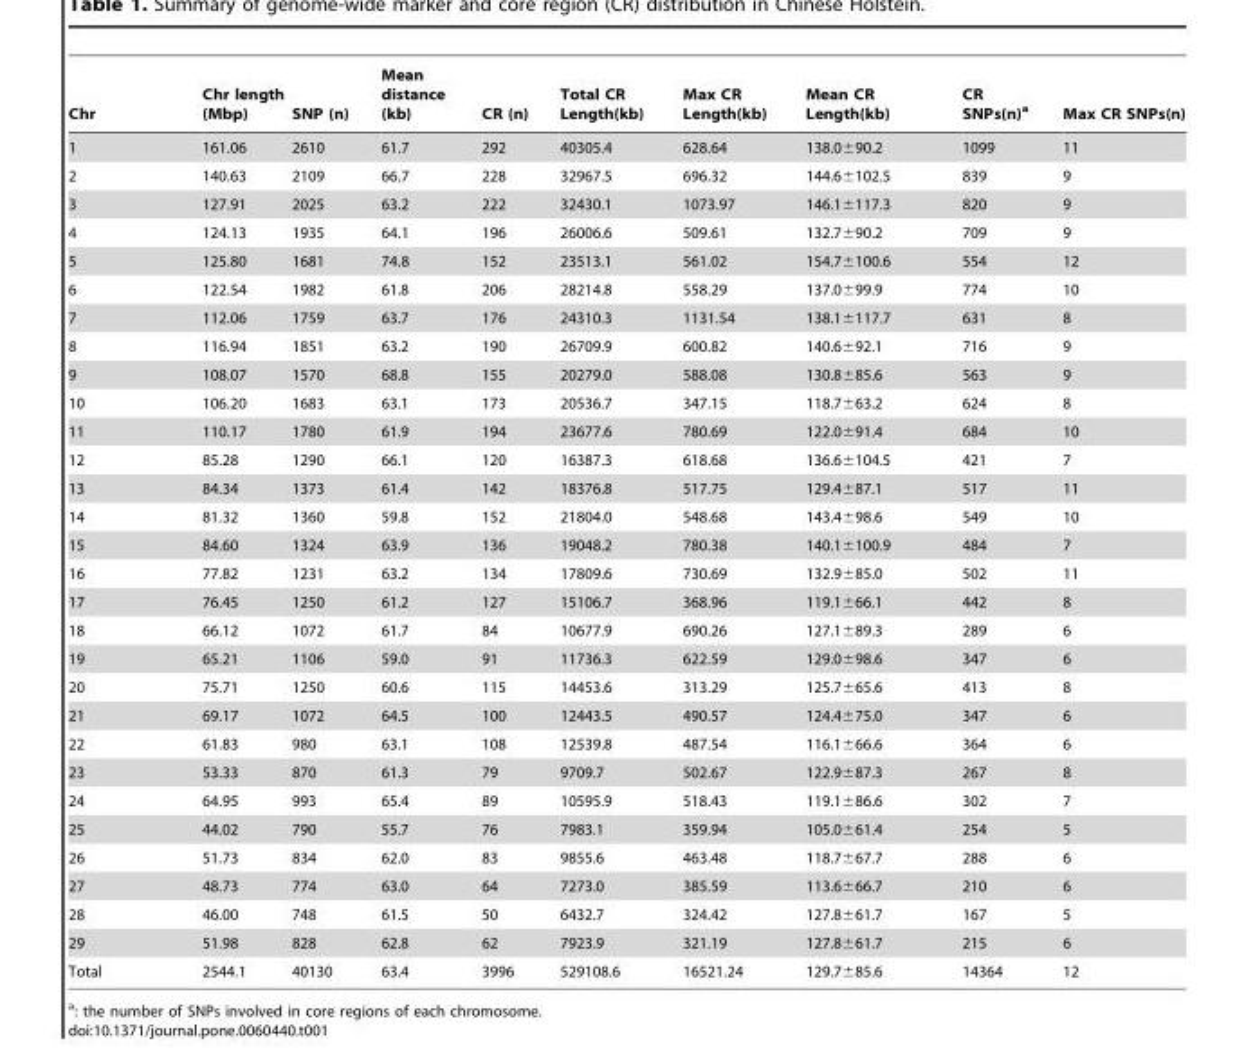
<table><thead><tr><td>Chr</td><td>Chr length (Mbp)</td><td>SNP (n)</td><td>Mean distance (kb)</td><td>CR (n)</td><td>Total CR Length(kb)</td><td>Max CR Length(kb)</td><td>Mean CR Length(kb)</td><td>CR SNPs(n)<sup>a</sup></td><td>Max CR SNPs(n)</td></tr></thead><tbody><tr><td>1</td><td>161.06</td><td>2610</td><td>61.7</td><td>292</td><td>40305.4</td><td>628.64</td><td>138.0±90.2</td><td>1099</td><td>11</td></tr><tr><td>2</td><td>140.63</td><td>2109</td><td>66.7</td><td>228</td><td>32967.5</td><td>696.32</td><td>144.6±102.5</td><td>839</td><td>9</td></tr><tr><td>3</td><td>127.91</td><td>2025</td><td>63.2</td><td>222</td><td>32430.1</td><td>1073.97</td><td>146.1±117.3</td><td>820</td><td>9</td></tr><tr><td>4</td><td>124.13</td><td>1935</td><td>64.1</td><td>196</td><td>26006.6</td><td>509.61</td><td>132.7±90.2</td><td>709</td><td>9</td></tr><tr><td>5</td><td>125.80</td><td>1681</td><td>74.8</td><td>152</td><td>23513.1</td><td>561.02</td><td>154.7±100.6</td><td>554</td><td>12</td></tr><tr><td>6</td><td>122.54</td><td>1982</td><td>61.8</td><td>206</td><td>28214.8</td><td>558.29</td><td>137.0±99.9</td><td>774</td><td>10</td></tr><tr><td>7</td><td>112.06</td><td>1759</td><td>63.7</td><td>176</td><td>24310.3</td><td>1131.54</td><td>138.1±117.7</td><td>631</td><td>8</td></tr><tr><td>8</td><td>116.94</td><td>1851</td><td>63.2</td><td>190</td><td>26709.9</td><td>600.82</td><td>140.6±92.1</td><td>716</td><td>9</td></tr><tr><td>9</td><td>108.07</td><td>1570</td><td>68.8</td><td>155</td><td>20279.0</td><td>588.08</td><td>130.8±85.6</td><td>563</td><td>9</td></tr><tr><td>10</td><td>106.20</td><td>1683</td><td>63.1</td><td>173</td><td>20536.7</td><td>347.15</td><td>118.7±63.2</td><td>624</td><td>8</td></tr><tr><td>11</td><td>110.17</td><td>1780</td><td>61.9</td><td>194</td><td>23677.6</td><td>780.69</td><td>122.0±91.4</td><td>684</td><td>10</td></tr><tr><td>12</td><td>85.28</td><td>1290</td><td>66.1</td><td>120</td><td>16387.3</td><td>618.68</td><td>136.6±104.5</td><td>421</td><td>7</td></tr><tr><td>13</td><td>84.34</td><td>1373</td><td>61.4</td><td>142</td><td>18376.8</td><td>517.75</td><td>129.4±87.1</td><td>517</td><td>11</td></tr><tr><td>14</td><td>81.32</td><td>1360</td><td>59.8</td><td>152</td><td>21804.0</td><td>548.68</td><td>143.4±98.6</td><td>549</td><td>10</td></tr><tr><td>15</td><td>84.60</td><td>1324</td><td>63.9</td><td>136</td><td>19048.2</td><td>780.38</td><td>140.1±100.9</td><td>484</td><td>7</td></tr><tr><td>16</td><td>77.82</td><td>1231</td><td>63.2</td><td>134</td><td>17809.6</td><td>730.69</td><td>132.9±85.0</td><td>502</td><td>11</td></tr><tr><td>17</td><td>76.45</td><td>1250</td><td>61.2</td><td>127</td><td>15106.7</td><td>368.96</td><td>119.1±66.1</td><td>442</td><td>8</td></tr><tr><td>18</td><td>66.12</td><td>1072</td><td>61.7</td><td>84</td><td>10677.9</td><td>690.26</td><td>127.1±89.3</td><td>289</td><td>6</td></tr><tr><td>19</td><td>65.21</td><td>1106</td><td>59.0</td><td>91</td><td>11736.3</td><td>622.59</td><td>129.0±98.6</td><td>347</td><td>6</td></tr><tr><td>20</td><td>75.71</td><td>1250</td><td>60.6</td><td>115</td><td>14453.6</td><td>313.29</td><td>125.7±65.6</td><td>413</td><td>8</td></tr><tr><td>21</td><td>69.17</td><td>1072</td><td>64.5</td><td>100</td><td>12443.5</td><td>490.57</td><td>124.4±75.0</td><td>347</td><td>6</td></tr><tr><td>22</td><td>61.83</td><td>980</td><td>63.1</td><td>108</td><td>12539.8</td><td>487.54</td><td>116.1±66.6</td><td>364</td><td>6</td></tr><tr><td>23</td><td>53.33</td><td>870</td><td>61.3</td><td>79</td><td>9709.7</td><td>502.67</td><td>122.9±87.3</td><td>267</td><td>8</td></tr><tr><td>24</td><td>64.95</td><td>993</td><td>65.4</td><td>89</td><td>10595.9</td><td>518.43</td><td>119.1±86.6</td><td>302</td><td>7</td></tr><tr><td>25</td><td>44.02</td><td>790</td><td>55.7</td><td>76</td><td>7983.1</td><td>359.94</td><td>105.0±61.4</td><td>254</td><td>5</td></tr><tr><td>26</td><td>51.73</td><td>834</td><td>62.0</td><td>83</td><td>9855.6</td><td>463.48</td><td>118.7±67.7</td><td>288</td><td>6</td></tr><tr><td>27</td><td>48.73</td><td>774</td><td>63.0</td><td>64</td><td>7273.0</td><td>385.59</td><td>113.6±66.7</td><td>210</td><td>6</td></tr><tr><td>28</td><td>46.00</td><td>748</td><td>61.5</td><td>50</td><td>6432.7</td><td>324.42</td><td>127.8±61.7</td><td>167</td><td>5</td></tr><tr><td>29</td><td>51.98</td><td>828</td><td>62.8</td><td>62</td><td>7923.9</td><td>321.19</td><td>127.8±61.7</td><td>215</td><td>6</td></tr><tr><td>Total</td><td>2544.1</td><td>40130</td><td>63.4</td><td>3996</td><td>529108.6</td><td>16521.24</td><td>129.7±85.6</td><td>14364</td><td>12</td></tr></tbody></table>